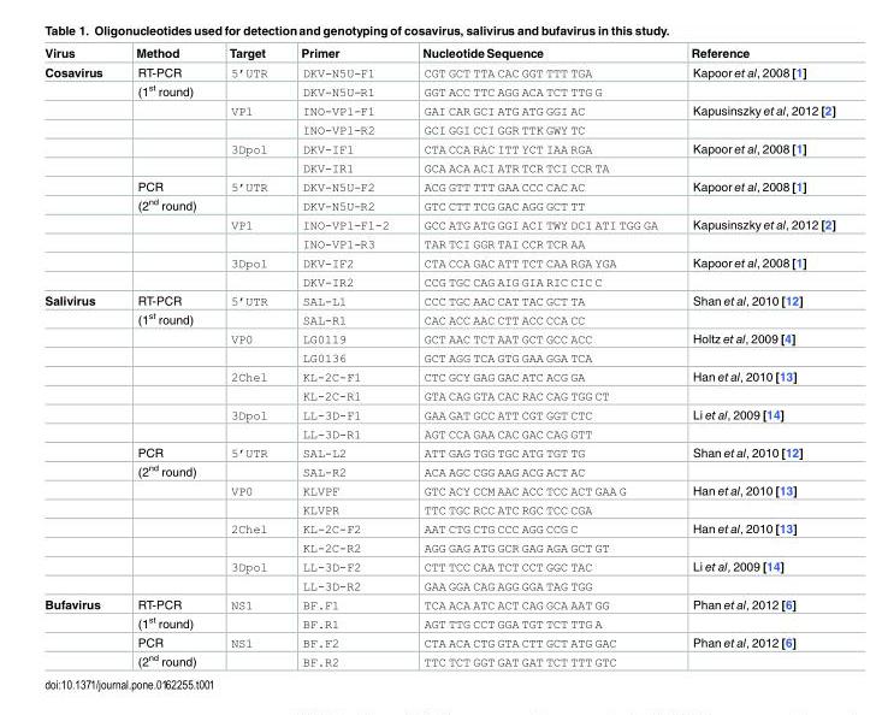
<table><thead><tr><td>Virus</td><td>Method</td><td>Target</td><td>Primer</td><td>Nucleotide Sequence</td><td>Reference</td></tr></thead><tbody><tr><td rowspan="12">Cosavirus</td><td>RT-PCR</td><td>5’UTR</td><td>DKV-N5U-F1</td><td>CGT GCT TTA CAC GGT TTT TGA</td><td>Kapoor et al, 2008 [1]</td></tr><tr><td>(1<sup>st</sup> round)</td><td></td><td>DKV-N5U-R1</td><td>GGT ACC TTC AGG ACA TCT TTG G</td><td></td></tr><tr><td></td><td>VP1</td><td>INO-VP1-F1</td><td>GAI CAR GCI ATG ATG GGI AC</td><td>Kapusinszky et al, 2012 [2]</td></tr><tr><td></td><td></td><td>INO-VP1-R2</td><td>GCI GGI CCI GGR TTK GWY TC</td><td></td></tr><tr><td></td><td>3Dpol</td><td>DKV-IF1</td><td>CTA CCA RAC ITT YCT IAA RGA</td><td>Kapoor et al, 2008 [1]</td></tr><tr><td></td><td></td><td>DKV-IR1</td><td>GCA ACA ACI ATR TCR TCI CCR TA</td><td></td></tr><tr><td>PCR</td><td>5’UTR</td><td>DKV-N5U-F2</td><td>ACG GTT TTT GAA CCC CAC AC</td><td>Kapoor et al, 2008 [1]</td></tr><tr><td>(2<sup>nd</sup> round)</td><td></td><td>DKV-N5U-R2</td><td>GTC CTT TCG GAC AGG GCT TT</td><td></td></tr><tr><td></td><td>VP1</td><td>INO-VP1-F1-2</td><td>GCC ATG ATG GGI ACI TWY DCI ATI TGG GA</td><td>Kapusinszky et al, 2012 [2]</td></tr><tr><td></td><td></td><td>INO-VP1-R3</td><td>TAR TCI GGR TAI CCR TCR AA</td><td></td></tr><tr><td></td><td>3Dpol</td><td>DKV-IF2</td><td>CTA CCA GAC ATT TCT CAA RGA YGA</td><td>Kapoor et al, 2008 [1]</td></tr><tr><td></td><td></td><td>DKV-IR2</td><td>CCG TGC CAG AIG GIA RIC CIC C</td><td></td></tr><tr><td rowspan="16">Salivirus</td><td>RT-PCR</td><td>5’UTR</td><td>SAL-L1</td><td>CCC TGC AAC CAT TAC GCT TA</td><td>Shan et al, 2010 [12]</td></tr><tr><td>(1<sup>st</sup> round)</td><td></td><td>SAL-R1</td><td>CAC ACC AAC CTT ACC CCA CC</td><td></td></tr><tr><td></td><td>VP0</td><td>LG0119</td><td>GCT AAC TCT AAT GCT GCC ACC</td><td>Holtz et al, 2009 [4]</td></tr><tr><td></td><td></td><td>LG0136</td><td>GCT AGG TCA GTG GAA GGA TCA</td><td></td></tr><tr><td></td><td>2Chel</td><td>KL-2C-F1</td><td>CTC GCY GAG GAC ATC ACG GA</td><td>Han et al, 2010 [13]</td></tr><tr><td></td><td></td><td>KL-2C-R1</td><td>GTA CAG GTA CAC RAC CAG TGG CT</td><td></td></tr><tr><td></td><td>3Dpol</td><td>LL-3D-F1</td><td>GAA GAT GCC ATT CGT GGT CTC</td><td>Li et al, 2009 [14]</td></tr><tr><td></td><td></td><td>LL-3D-R1</td><td>AGT CCA GAA CAC GAC CAG GTT</td><td></td></tr><tr><td>PCR</td><td>5’UTR</td><td>SAL-L2</td><td>ATT GAG TGG TGC ATG TGT TG</td><td>Shan et al, 2010 [12]</td></tr><tr><td>(2<sup>nd</sup> round)</td><td></td><td>SAL-R2</td><td>ACA AGC CGG AAG ACG ACT AC</td><td></td></tr><tr><td></td><td>VP0</td><td>KLVPF</td><td>GTC ACY CCM AAC ACC TCC ACT GAA G</td><td>Han et al, 2010 [13]</td></tr><tr><td></td><td></td><td>KLVPR</td><td>TTC TGC RCC ATC RGC TCC CGA</td><td></td></tr><tr><td></td><td>2Chel</td><td>KL-2C-F2</td><td>AAT CTG CTG CCC AGG CCG C</td><td>Han et al, 2010 [13]</td></tr><tr><td></td><td></td><td>KL-2C-R2</td><td>AGG GAG ATG GCR GAG AGA GCT GT</td><td></td></tr><tr><td></td><td>3Dpol</td><td>LL-3D-F2</td><td>CTT TCC CAA TCT CCT GGC TAC</td><td>Li et al, 2009 [14]</td></tr><tr><td></td><td></td><td>LL-3D-R2</td><td>GAA GGA CAG AGG GGA TAG TGG</td><td></td></tr><tr><td rowspan="4">Bufavirus</td><td>RT-PCR</td><td>NS1</td><td>BF.F1</td><td>TCA ACA ATC ACT CAG GCA AAT GG</td><td>Phan et al, 2012 [6]</td></tr><tr><td>(1<sup>st</sup> round)</td><td></td><td>BF.R1</td><td>AGT TTG CCT GGA TGT TCT TTG A</td><td></td></tr><tr><td>PCR</td><td>NS1</td><td>BF.F2</td><td>CTA ACA CTG GTA CTT GCT ATG GAC</td><td>Phan et al, 2012 [6]</td></tr><tr><td>(2<sup>nd</sup> round)</td><td></td><td>BF.R2</td><td>TTC TCT GGT GAT GAT TCT TTT GTC</td><td></td></tr></tbody></table>